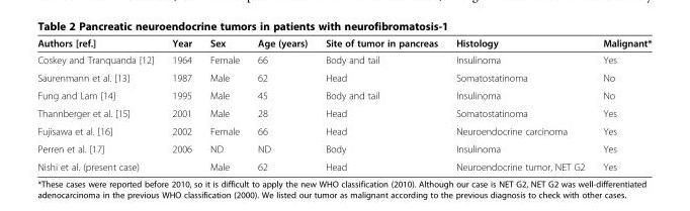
<table><thead><tr><td>Authors [ref.]</td><td>Year</td><td>Sex</td><td>Age (years)</td><td>Site of tumor in pancreas</td><td>Histology</td><td>Malignant*</td></tr></thead><tbody><tr><td>Coskey and Tranquanda [12]</td><td>1964</td><td>Female</td><td>66</td><td>Body and tail</td><td>Insulinoma</td><td>Yes</td></tr><tr><td>Saurenmann et al. [13]</td><td>1987</td><td>Male</td><td>62</td><td>Head</td><td>Somatostatinoma</td><td>No</td></tr><tr><td>Fung and Lam [14]</td><td>1995</td><td>Male</td><td>45</td><td>Body and tail</td><td>Insulinoma</td><td>No</td></tr><tr><td>Thannberger et al. [15]</td><td>2001</td><td>Male</td><td>28</td><td>Head</td><td>Somatostatinoma</td><td>Yes</td></tr><tr><td>Fujisawa et al. [16]</td><td>2002</td><td>Female</td><td>66</td><td>Head</td><td>Neuroendocrine carcinoma</td><td>Yes</td></tr><tr><td>Perren et al. [17]</td><td>2006</td><td>ND</td><td>ND</td><td>Body</td><td>Insulinoma</td><td>Yes</td></tr><tr><td>Nishi et al. (present case)</td><td></td><td>Male</td><td>62</td><td>Head</td><td>Neuroendocrine tumor, NET G2</td><td>Yes</td></tr></tbody></table>